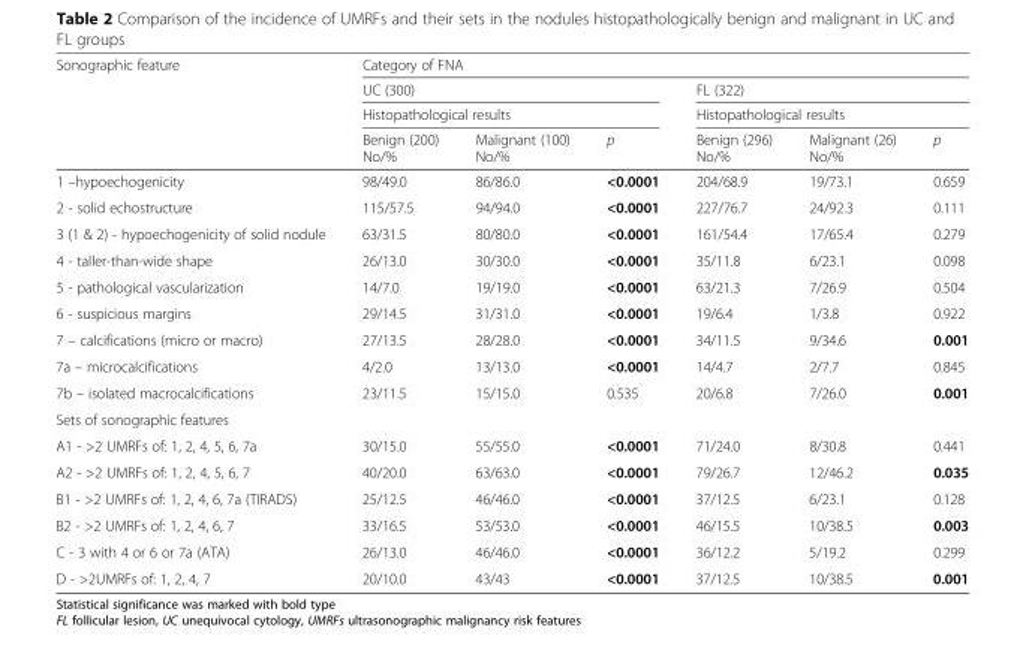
<table><thead><tr><td rowspan="4">Sonographic feature</td><td colspan="6">Category of FNA</td></tr><tr><td rowspan="2" colspan="3">UC (300) Histopathological results</td><td rowspan="2" colspan="3">FL (322) Histopathological results</td></tr><tr></tr><tr><td>Benign (200) No/%</td><td>Malignant (100) No/%</td><td>p</td><td>Benign (296) No/%</td><td>Malignant (26) No/%</td><td>p</td></tr></thead><tbody><tr><td>1 –hypoechogenicity</td><td>98/49.0</td><td>86/86.0</td><td>&lt;0.0001</td><td>204/68.9</td><td>19/73.1</td><td>0.659</td></tr><tr><td>2 - solid echostructure</td><td>115/57.5</td><td>94/94.0</td><td>&lt;0.0001</td><td>227/76.7</td><td>24/92.3</td><td>0.111</td></tr><tr><td>3 (1 &amp; 2) - hypoechogenicity of solid nodule</td><td>63/31.5</td><td>80/80.0</td><td>&lt;0.0001</td><td>161/54.4</td><td>17/65.4</td><td>0.279</td></tr><tr><td>4 - taller-than-wide shape</td><td>26/13.0</td><td>30/30.0</td><td>&lt;0.0001</td><td>35/11.8</td><td>6/23.1</td><td>0.098</td></tr><tr><td>5 - pathological vascularization</td><td>14/7.0</td><td>19/19.0</td><td>&lt;0.0001</td><td>63/21.3</td><td>7/26.9</td><td>0.504</td></tr><tr><td>6 - suspicious margins</td><td>29/14.5</td><td>31/31.0</td><td>&lt;0.0001</td><td>19/6.4</td><td>1/3.8</td><td>0.922</td></tr><tr><td>7 – calcifications (micro or macro)</td><td>27/13.5</td><td>28/28.0</td><td>&lt;0.0001</td><td>34/11.5</td><td>9/34.6</td><td>0.001</td></tr><tr><td>7a – microcalcifications</td><td>4/2.0</td><td>13/13.0</td><td>&lt;0.0001</td><td>14/4.7</td><td>2/7.7</td><td>0.845</td></tr><tr><td>7b – isolated macrocalcifications</td><td>23/11.5</td><td>15/15.0</td><td>0.535</td><td>20/6.8</td><td>7/26.0</td><td>0.001</td></tr><tr><td colspan="7">Sets of sonographic features</td></tr><tr><td>A1 - &gt;2 UMRFs of: 1, 2, 4, 5, 6, 7a</td><td>30/15.0</td><td>55/55.0</td><td>&lt;0.0001</td><td>71/24.0</td><td>8/30.8</td><td>0.441</td></tr><tr><td>A2 - &gt;2 UMRFs of: 1, 2, 4, 5, 6, 7</td><td>40/20.0</td><td>63/63.0</td><td>&lt;0.0001</td><td>79/26.7</td><td>12/46.2</td><td>0.035</td></tr><tr><td>B1 - &gt;2 UMRFs of: 1, 2, 4, 6, 7a (TIRADS)</td><td>25/12.5</td><td>46/46.0</td><td>&lt;0.0001</td><td>37/12.5</td><td>6/23.1</td><td>0.128</td></tr><tr><td>B2 - &gt;2 UMRFs of: 1, 2, 4, 6, 7</td><td>33/16.5</td><td>53/53.0</td><td>&lt;0.0001</td><td>46/15.5</td><td>10/38.5</td><td>0.003</td></tr><tr><td>C - 3 with 4 or 6 or 7a (ATA)</td><td>26/13.0</td><td>46/46.0</td><td>&lt;0.0001</td><td>36/12.2</td><td>5/19.2</td><td>0.299</td></tr><tr><td>D - &gt;2UMRFs of: 1, 2, 4, 7</td><td>20/10.0</td><td>43/43</td><td>&lt;0.0001</td><td>37/12.5</td><td>10/38.5</td><td>0.001</td></tr></tbody></table>